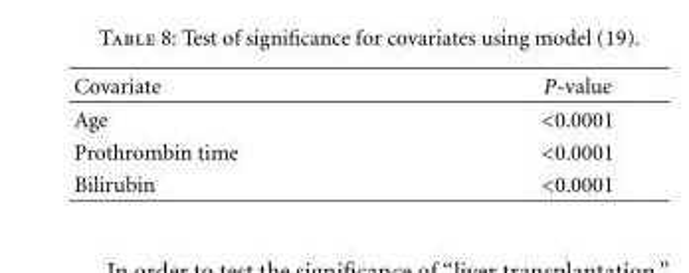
<table><thead><tr><td>Covariate</td><td>P-value</td></tr></thead><tbody><tr><td>Age</td><td>&lt;0.0001</td></tr><tr><td>Prothrombin time</td><td>&lt;0.0001</td></tr><tr><td>Bilirubin</td><td>&lt;0.0001</td></tr></tbody></table>